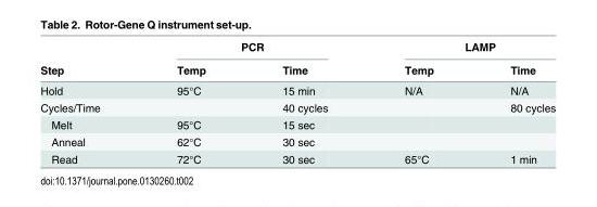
<table><thead><tr><td rowspan="2">Step</td><td colspan="2">PCR</td><td colspan="2">LAMP</td></tr><tr><td>Temp</td><td>Time</td><td>Temp</td><td>Time</td></tr></thead><tbody><tr><td>Hold</td><td>95°C</td><td>15 min</td><td>N/A</td><td>N/A</td></tr><tr><td>Cycles/Time</td><td></td><td>40 cycles</td><td></td><td>80 cycles</td></tr><tr><td>Melt</td><td>95°C</td><td>15 sec</td><td></td><td></td></tr><tr><td>Anneal</td><td>62°C</td><td>30 sec</td><td></td><td></td></tr><tr><td>Read</td><td>72°C</td><td>30 sec</td><td>65°C</td><td>1 min</td></tr></tbody></table>